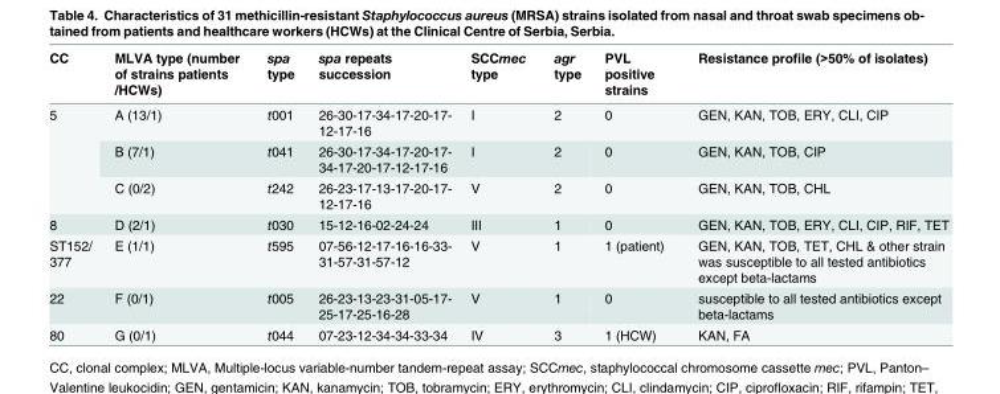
<table><thead><tr><td>CC</td><td>MLVA type (number of strains patients /HCWs)</td><td>spa type</td><td>spa repeats succession</td><td>SCCmec type</td><td>agr type</td><td>PVL positive strains</td><td>Resistance profile (&gt;50% of isolates)</td></tr></thead><tbody><tr><td rowspan="3">5</td><td>A (13/1)</td><td>t001</td><td>26-30-17-34-17-20-17- 12-17-16</td><td>I</td><td>2</td><td>0</td><td>GEN, KAN, TOB, ERY, CLI, CIP</td></tr><tr><td>B (7/1)</td><td>t041</td><td>26-30-17-34-17-20-17- 34-17-20-17-12-17-16</td><td>I</td><td>2</td><td>0</td><td>GEN, KAN, TOB, CIP</td></tr><tr><td>C (0/2)</td><td>t242</td><td>26-23-17-13-17-20-17- 12-17-16</td><td>V</td><td>2</td><td>0</td><td>GEN, KAN, TOB, CHL</td></tr><tr><td>8</td><td>D (2/1)</td><td>t030</td><td>15-12-16-02-24-24</td><td>III</td><td>1</td><td>0</td><td>GEN, KAN, TOB, ERY, CLI, CIP, RIF, TET</td></tr><tr><td>ST152/ 377</td><td>E (1/1)</td><td>t595</td><td>07-56-12-17-16-16-33- 31-57-31-57-12</td><td>V</td><td>1</td><td>1 (patient)</td><td>GEN, KAN, TOB, TET, CHL &amp; other strain was susceptible to all tested antibiotics except beta-lactams</td></tr><tr><td>22</td><td>F (0/1)</td><td>t005</td><td>26-23-13-23-31-05-17- 25-17-25-16-28</td><td>V</td><td>1</td><td>0</td><td>susceptible to all tested antibiotics except beta-lactams</td></tr><tr><td>80</td><td>G (0/1)</td><td>t044</td><td>07-23-12-34-34-33-34</td><td>IV</td><td>3</td><td>1 (HCW)</td><td>KAN, FA</td></tr></tbody></table>